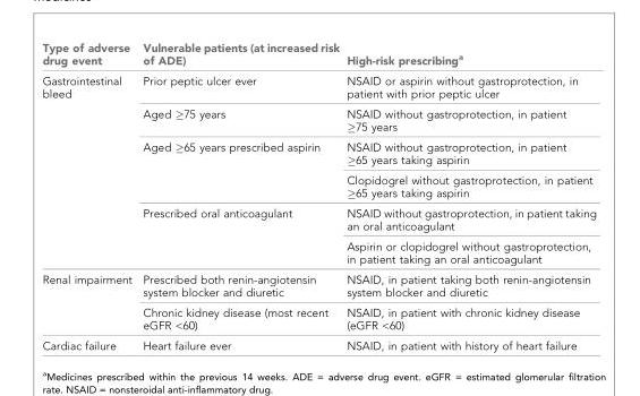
<table><thead><tr><td>Type of adverse drug event</td><td>Vulnerable patients (at increased risk of ADE)</td><td>High-risk prescribing<sup>a</sup></td></tr></thead><tbody><tr><td rowspan="6">Gastrointestinal bleed</td><td>Prior peptic ulcer ever</td><td>NSAID or aspirin without gastroprotection, in patient with prior peptic ulcer</td></tr><tr><td>Aged ≥75 years</td><td>NSAID without gastroprotection, in patient ≥75 years</td></tr><tr><td rowspan="2">Aged ≥65 years prescribed aspirin</td><td>NSAID without gastroprotection, in patient ≥65 years taking aspirin</td></tr><tr><td>Clopidogrel without gastroprotection, in patient ≥65 years taking aspirin</td></tr><tr><td rowspan="2">Prescribed oral anticoagulant</td><td>NSAID without gastroprotection, in patient taking an oral anticoagulant</td></tr><tr><td>Aspirin or clopidogrel without gastroprotection, in patient taking an oral anticoagulant</td></tr><tr><td rowspan="2">Renal impairment</td><td>Prescribed both renin-angiotensin system blocker and diuretic</td><td>NSAID, in patient taking both renin-angiotensin system blocker and diuretic</td></tr><tr><td>Chronic kidney disease (most recent eGFR &lt;60)</td><td>NSAID, in patient with chronic kidney disease (eGFR &lt;60)</td></tr><tr><td>Cardiac failure</td><td>Heart failure ever</td><td>NSAID, in patient with history of heart failure</td></tr></tbody></table>